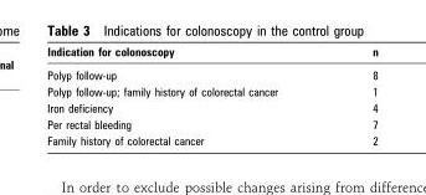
<table><thead><tr><td>Indication for colonoscopy</td><td>n</td></tr></thead><tbody><tr><td>Polyp follow-up</td><td>8</td></tr><tr><td>Polyp follow-up; family history of colorectal cancer</td><td>1</td></tr><tr><td>Iron deficiency</td><td>4</td></tr><tr><td>Per rectal bleeding</td><td>7</td></tr><tr><td>Family history of colorectal cancer</td><td>2</td></tr></tbody></table>